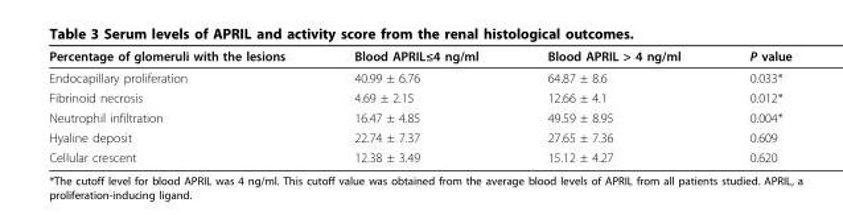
<table><thead><tr><td>Percentage of glomeruli with the lesions</td><td>Blood APRIL≤4 ng/ml</td><td>Blood APRIL &gt; 4 ng/ml</td><td>P value</td></tr></thead><tbody><tr><td>Endocapillary proliferation</td><td>40.99 ± 6.76</td><td>64.87 ± 8.6</td><td>0.033*</td></tr><tr><td>Fibrinoid necrosis</td><td>4.69 ± 2.15</td><td>12.66 ± 4.1</td><td>0.012*</td></tr><tr><td>Neutrophil infiltration</td><td>16.47 ± 4.85</td><td>49.59 ± 8.95</td><td>0.004*</td></tr><tr><td>Hyaline deposit</td><td>22.74 ± 7.37</td><td>27.65 ± 7.36</td><td>0.609</td></tr><tr><td>Cellular crescent</td><td>12.38 ± 3.49</td><td>15.12 ± 4.27</td><td>0.620</td></tr></tbody></table>